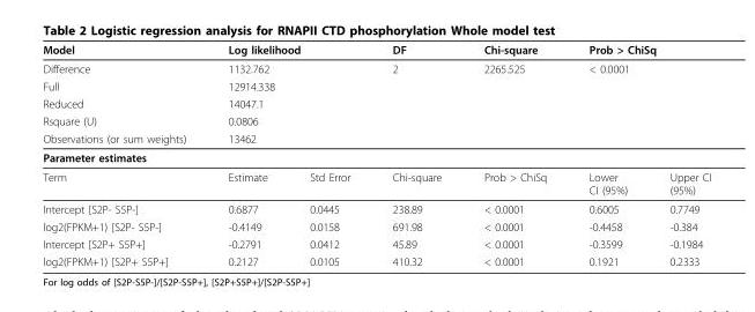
<table><thead><tr><td>Model</td><td colspan="2">Log likelihood</td><td>DF</td><td>Chi-square</td><td colspan="2">Prob &gt; ChiSq</td></tr></thead><tbody><tr><td>Difference</td><td colspan="2">1132.762</td><td>2</td><td>2265.525</td><td colspan="2">&lt; 0.0001</td></tr><tr><td>Full</td><td colspan="2">12914.338</td><td></td><td></td><td></td><td></td></tr><tr><td>Reduced</td><td colspan="2">14047.1</td><td></td><td></td><td></td><td></td></tr><tr><td>Rsquare (U)</td><td colspan="2">0.0806</td><td></td><td></td><td></td><td></td></tr><tr><td>Observations (or sum weights)</td><td colspan="2">13462</td><td></td><td></td><td></td><td></td></tr><tr><td colspan="7">Parameter estimates</td></tr><tr><td>Term</td><td>Estimate</td><td>Std Error</td><td>Chi-square</td><td>Prob &gt; ChiSq</td><td>Lower CI (95%)</td><td>Upper CI (95%)</td></tr><tr><td>Intercept [S2P- S5P-]</td><td>0.6877</td><td>0.0445</td><td>238.89</td><td>&lt; 0.0001</td><td>0.6005</td><td>0.7749</td></tr><tr><td>log2(FPKM+1) [S2P- S5P-]</td><td>-0.4149</td><td>0.0158</td><td>691.98</td><td>&lt; 0.0001</td><td>-0.4458</td><td>-0.384</td></tr><tr><td>Intercept [S2P+ S5P+]</td><td>-0.2791</td><td>0.0412</td><td>45.89</td><td>&lt; 0.0001</td><td>-0.3599</td><td>-0.1984</td></tr><tr><td>log2(FPKM+1) [S2P+ S5P+]</td><td>0.2127</td><td>0.0105</td><td>410.32</td><td>&lt; 0.0001</td><td>0.1921</td><td>0.2333</td></tr></tbody></table>